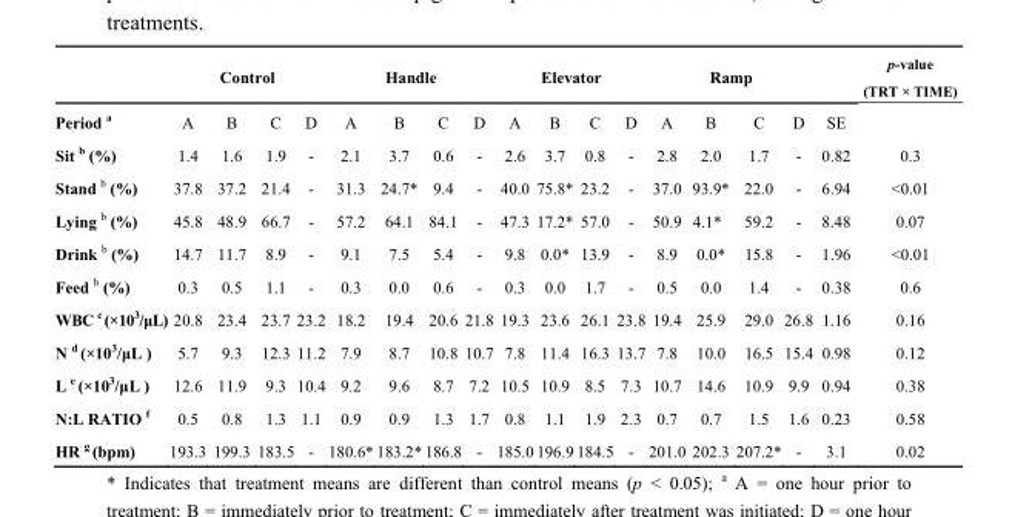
<table><thead><tr><td rowspan="2">Period <sup>a</sup></td><td colspan="4">Control</td><td colspan="4">Handle</td><td colspan="4">Elevator</td><td colspan="4">Ramp</td><td rowspan="2">SE</td><td rowspan="2">p-value (TRT × TIME)</td></tr><tr><td>A</td><td>B</td><td>C</td><td>D</td><td>A</td><td>B</td><td>C</td><td>D</td><td>A</td><td>B</td><td>C</td><td>D</td><td>A</td><td>B</td><td>C</td><td>D</td></tr></thead><tbody><tr><td>Sit <sup>b</sup> (%)</td><td>1.4</td><td>1.6</td><td>1.9</td><td>-</td><td>2.1</td><td>3.7</td><td>0.6</td><td>-</td><td>2.6</td><td>3.7</td><td>0.8</td><td>-</td><td>2.8</td><td>2.0</td><td>1.7</td><td>-</td><td>0.82</td><td>0.3</td></tr><tr><td>Stand <sup>b</sup> (%)</td><td>37.8</td><td>37.2</td><td>21.4</td><td>-</td><td>31.3</td><td>24.7*</td><td>9.4</td><td>-</td><td>40.0</td><td>75.8*</td><td>23.2</td><td>-</td><td>37.0</td><td>93.9*</td><td>22.0</td><td>-</td><td>6.94</td><td>&lt;0.01</td></tr><tr><td>Lying <sup>b</sup> (%)</td><td>45.8</td><td>48.9</td><td>66.7</td><td>-</td><td>57.2</td><td>64.1</td><td>84.1</td><td>-</td><td>47.3</td><td>17.2*</td><td>57.0</td><td>-</td><td>50.9</td><td>4.1*</td><td>59.2</td><td>-</td><td>8.48</td><td>0.07</td></tr><tr><td>Drink <sup>b</sup> (%)</td><td>14.7</td><td>11.7</td><td>8.9</td><td>-</td><td>9.1</td><td>7.5</td><td>5.4</td><td>-</td><td>9.8</td><td>0.0*</td><td>13.9</td><td>-</td><td>8.9</td><td>0.0*</td><td>15.8</td><td>-</td><td>1.96</td><td>&lt;0.01</td></tr><tr><td>Feed <sup>b</sup> (%)</td><td>0.3</td><td>0.5</td><td>1.1</td><td>-</td><td>0.3</td><td>0.0</td><td>0.6</td><td>-</td><td>0.3</td><td>0.0</td><td>1.7</td><td>-</td><td>0.5</td><td>0.0</td><td>1.4</td><td>-</td><td>0.38</td><td>0.6</td></tr><tr><td>WBC <sup>c</sup> (×10<sup>3</sup>/μL)</td><td>20.8</td><td>23.4</td><td>23.7</td><td>23.2</td><td>18.2</td><td>19.4</td><td>20.6</td><td>21.8</td><td>19.3</td><td>23.6</td><td>26.1</td><td>23.8</td><td>19.4</td><td>25.9</td><td>29.0</td><td>26.8</td><td>1.16</td><td>0.16</td></tr><tr><td>N <sup>d</sup> (×10<sup>3</sup>/μL )</td><td>5.7</td><td>9.3</td><td>12.3</td><td>11.2</td><td>7.9</td><td>8.7</td><td>10.8</td><td>10.7</td><td>7.8</td><td>11.4</td><td>16.3</td><td>13.7</td><td>7.8</td><td>10.0</td><td>16.5</td><td>15.4</td><td>0.98</td><td>0.12</td></tr><tr><td>L <sup>e</sup> (×10<sup>3</sup>/μL )</td><td>12.6</td><td>11.9</td><td>9.3</td><td>10.4</td><td>9.2</td><td>9.6</td><td>8.7</td><td>7.2</td><td>10.5</td><td>10.9</td><td>8.5</td><td>7.3</td><td>10.7</td><td>14.6</td><td>10.9</td><td>9.9</td><td>0.94</td><td>0.38</td></tr><tr><td>N:L RATIO <sup>f</sup></td><td>0.5</td><td>0.8</td><td>1.3</td><td>1.1</td><td>0.9</td><td>0.9</td><td>1.3</td><td>1.7</td><td>0.8</td><td>1.1</td><td>1.9</td><td>2.3</td><td>0.7</td><td>0.7</td><td>1.5</td><td>1.6</td><td>0.23</td><td>0.58</td></tr><tr><td>HR <sup>g</sup> (bpm)</td><td>193.3</td><td>199.3</td><td>183.5</td><td>-</td><td>180.6*</td><td>183.2*</td><td>186.8</td><td>-</td><td>185.0</td><td>196.9</td><td>184.5</td><td>-</td><td>201.0</td><td>202.3</td><td>207.2*</td><td>-</td><td>3.1</td><td>0.02</td></tr></tbody></table>